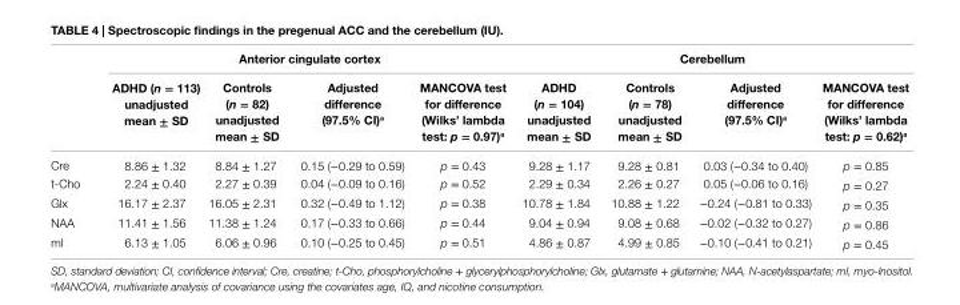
<table><thead><tr><td rowspan="2"></td><td colspan="4">anterior cingulate cortex</td><td colspan="4">cerebellum</td></tr><tr><td>aDhD (n = 113) unadjusted mean ± sD</td><td>controls (n = 82) unadjusted mean ± sD</td><td>adjusted difference (97.5% ci)<sup>a</sup></td><td>MancOVa test for difference (Wilks’ lambda test: p = 0.97)<sup>a</sup></td><td>aDhD (n = 104) unadjusted mean ± sD</td><td>controls (n = 78) unadjusted mean ± sD</td><td>adjusted difference (97.5% ci)<sup>a</sup></td><td>MancOVa test for difference (Wilks’ lambda test: p = 0.62)<sup>a</sup></td></tr></thead><tbody><tr><td>Cre</td><td>8.86 ± 1.32</td><td>8.84 ± 1.27</td><td>0.15 (−0.29 to 0.59)</td><td>p = 0.43</td><td>9.28 ± 1.17</td><td>9.28 ± 0.81</td><td>0.03 (−0.34 to 0.40)</td><td>p = 0.85</td></tr><tr><td>t-Cho</td><td>2.24 ± 0.40</td><td>2.27 ± 0.39</td><td>0.04 (−0.09 to 0.16)</td><td>p = 0.52</td><td>2.29 ± 0.34</td><td>2.26 ± 0.27</td><td>0.05 (−0.06 to 0.16)</td><td>p = 0.27</td></tr><tr><td>Glx</td><td>16.17 ± 2.37</td><td>16.05 ± 2.31</td><td>0.32 (−0.49 to 1.12)</td><td>p = 0.38</td><td>10.78 ± 1.84</td><td>10.88 ± 1.22</td><td>−0.24 (−0.81 to 0.33)</td><td>p = 0.35</td></tr><tr><td>NAA</td><td>11.41 ± 1.56</td><td>11.38 ± 1.24</td><td>0.17 (−0.33 to 0.66)</td><td>p = 0.44</td><td>9.04 ± 0.94</td><td>9.08 ± 0.68</td><td>−0.02 (−0.32 to 0.27)</td><td>p = 0.86</td></tr><tr><td>mI</td><td>6.13 ± 1.05</td><td>6.06 ± 0.96</td><td>0.10 (−0.25 to 0.45)</td><td>p = 0.51</td><td>4.86 ± 0.87</td><td>4.99 ± 0.85</td><td>−0.10 (−0.41 to 0.21)</td><td>p = 0.45</td></tr></tbody></table>